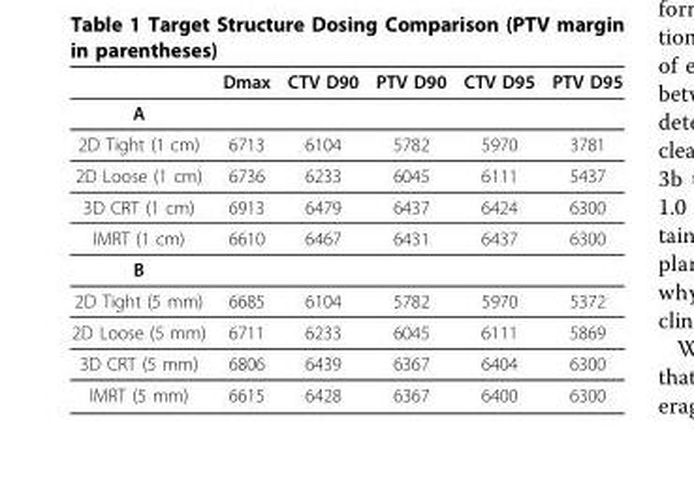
<table><thead><tr><td></td><td>Dmax</td><td>CTV D90</td><td>PTV D90</td><td>CTV D95</td><td>PTV D95</td></tr></thead><tbody><tr><td colspan="6">A</td></tr><tr><td>2D Tight (1 cm)</td><td>6713</td><td>6104</td><td>5782</td><td>5970</td><td>3781</td></tr><tr><td>2D Loose (1 cm)</td><td>6736</td><td>6233</td><td>6045</td><td>6111</td><td>5437</td></tr><tr><td>3D CRT (1 cm)</td><td>6913</td><td>6479</td><td>6437</td><td>6424</td><td>6300</td></tr><tr><td>IMRT (1 cm)</td><td>6610</td><td>6467</td><td>6431</td><td>6437</td><td>6300</td></tr><tr><td colspan="6">B</td></tr><tr><td>2D Tight (5 mm)</td><td>6685</td><td>6104</td><td>5782</td><td>5970</td><td>5372</td></tr><tr><td>2D Loose (5 mm)</td><td>6711</td><td>6233</td><td>6045</td><td>6111</td><td>5869</td></tr><tr><td>3D CRT (5 mm)</td><td>6806</td><td>6439</td><td>6367</td><td>6404</td><td>6300</td></tr><tr><td>IMRT (5 mm)</td><td>6615</td><td>6428</td><td>6367</td><td>6400</td><td>6300</td></tr></tbody></table>